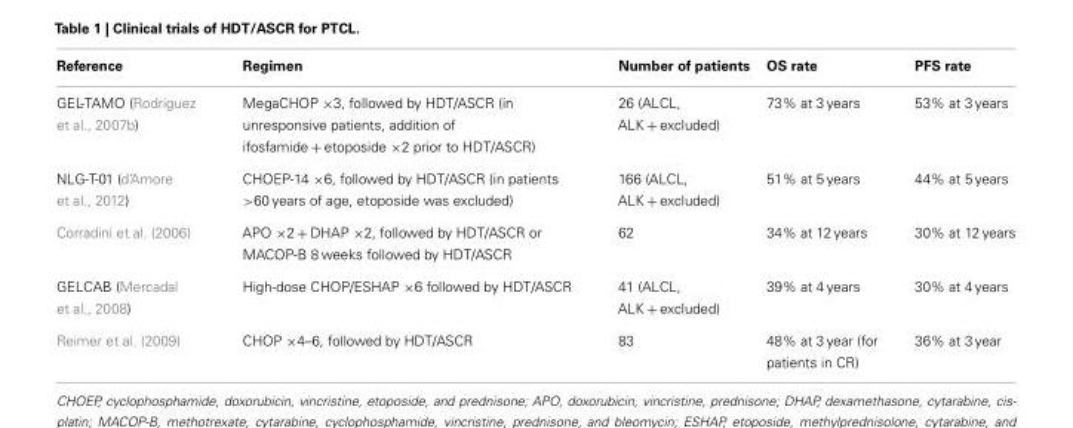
<table><thead><tr><td>Reference</td><td>Regimen</td><td>Number of patients</td><td>OS rate</td><td>PFS rate</td></tr></thead><tbody><tr><td>GEL-TAMO (Rodriguez et al., 2007b)</td><td>MegaCHOP ×3, followed by HDT/ASCR (in unresponsive patients, addition of ifosfamide + etoposide ×2 prior to HDT/ASCR)</td><td>26 (ALCL, ALK + excluded)</td><td>73% at 3 years</td><td>53% at 3 years</td></tr><tr><td>NLG-T-01 (d’Amore et al., 2012)</td><td>CHOEP-14 ×6, followed by HDT/ASCR (in patients &gt;60 years of age, etoposide was excluded)</td><td>166 (ALCL, ALK + excluded)</td><td>51% at 5 years</td><td>44% at 5 years</td></tr><tr><td>Corradini et al. (2006)</td><td>APO ×2 + DHAP ×2, followed by HDT/ASCR or MACOP-B 8 weeks followed by HDT/ASCR</td><td>62</td><td>34% at 12 years</td><td>30% at 12 years</td></tr><tr><td>GELCAB (Mercadal et al., 2008)</td><td>High-dose CHOP/ESHAP ×6 followed by HDT/ASCR</td><td>41 (ALCL, ALK + excluded)</td><td>39% at 4 years</td><td>30% at 4 years</td></tr><tr><td>Reimer et al. (2009)</td><td>CHOP ×4–6, followed by HDT/ASCR</td><td>83</td><td>48% at 3 year (for patients in CR)</td><td>36% at 3 year</td></tr></tbody></table>